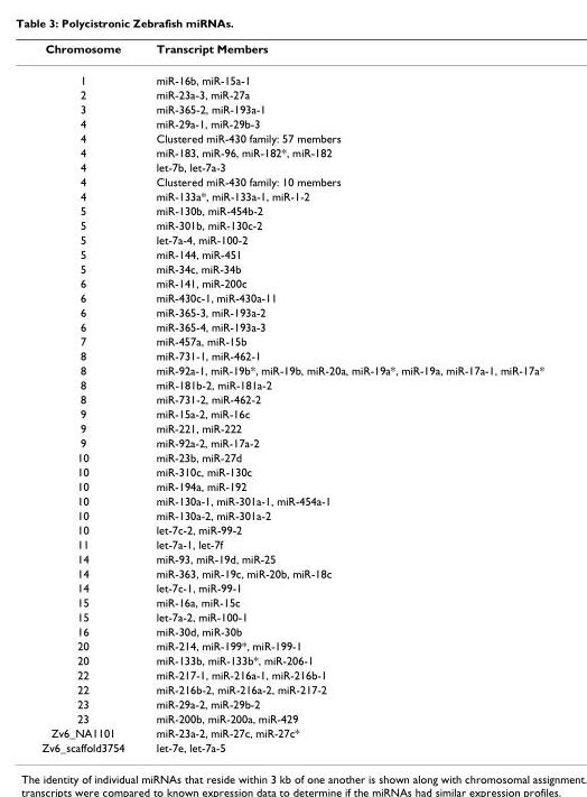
<table><thead><tr><td>Chromosome</td><td>Transcript Members</td></tr></thead><tbody><tr><td>1</td><td>miR-16b, miR-15a-1</td></tr><tr><td>2</td><td>miR-23a-3, miR-27a</td></tr><tr><td>3</td><td>miR-365-2, miR-193a-1</td></tr><tr><td>4</td><td>miR-29a-1, miR-29b-3</td></tr><tr><td>4</td><td>Clustered miR-430 family: 57 members</td></tr><tr><td>4</td><td>miR-183, miR-96, miR-182*, miR-182</td></tr><tr><td>4</td><td>let-7b, let-7a-3</td></tr><tr><td>4</td><td>Clustered miR-430 family: 10 members</td></tr><tr><td>4</td><td>miR-133a*, miR-133a-1, miR-1-2</td></tr><tr><td>5</td><td>miR-130b, miR-454b-2</td></tr><tr><td>5</td><td>miR-301b, miR-130c-2</td></tr><tr><td>5</td><td>let-7a-4, miR-100-2</td></tr><tr><td>5</td><td>miR-144, miR-451</td></tr><tr><td>5</td><td>miR-34c, miR-34b</td></tr><tr><td>6</td><td>miR-141, miR-200c</td></tr><tr><td>6</td><td>miR-430c-1, miR-430a-11</td></tr><tr><td>6</td><td>miR-365-3, miR-193a-2</td></tr><tr><td>6</td><td>miR-365-4, miR-193a-3</td></tr><tr><td>7</td><td>miR-457a, miR-15b</td></tr><tr><td>8</td><td>miR-731-1, miR-462-1</td></tr><tr><td>8</td><td>miR-92a-1, miR-19b*, miR-19b, miR-20a, miR-19a*, miR-19a, miR-17a-1, miR-17a*</td></tr><tr><td>8</td><td>miR-181b-2, miR-181a-2</td></tr><tr><td>8</td><td>miR-731-2, miR-462-2</td></tr><tr><td>9</td><td>miR-15a-2, miR-16c</td></tr><tr><td>9</td><td>miR-221, miR-222</td></tr><tr><td>9</td><td>miR-92a-2, miR-17a-2</td></tr><tr><td>10</td><td>miR-23b, miR-27d</td></tr><tr><td>10</td><td>miR-310c, miR-130c</td></tr><tr><td>10</td><td>miR-194a, miR-192</td></tr><tr><td>10</td><td>miR-130a-1, miR-301a-1, miR-454a-1</td></tr><tr><td>10</td><td>miR-130a-2, miR-301a-2</td></tr><tr><td>10</td><td>let-7c-2, miR-99-2</td></tr><tr><td>11</td><td>let-7a-1, let-7f</td></tr><tr><td>14</td><td>miR-93, miR-19d, miR-25</td></tr><tr><td>14</td><td>miR-363, miR-19c, miR-20b, miR-18c</td></tr><tr><td>14</td><td>let-7c-1, miR-99-1</td></tr><tr><td>15</td><td>miR-16a, miR-15c</td></tr><tr><td>15</td><td>let-7a-2, miR-100-1</td></tr><tr><td>16</td><td>miR-30d, miR-30b</td></tr><tr><td>20</td><td>miR-214, miR-199*, miR-199-1</td></tr><tr><td>20</td><td>miR-133b, miR-133b*, miR-206-1</td></tr><tr><td>22</td><td>miR-217-1, miR-216a-1, miR-216b-1</td></tr><tr><td>22</td><td>miR-216b-2, miR-216a-2, miR-217-2</td></tr><tr><td>23</td><td>miR-29a-2, miR-29b-2</td></tr><tr><td>23</td><td>miR-200b, miR-200a, miR-429</td></tr><tr><td>Zv6_NA1101</td><td>miR-23a-2, miR-27c, miR-27c*</td></tr><tr><td>Zv6_scaffold3754</td><td>let-7e, let-7a-5</td></tr></tbody></table>